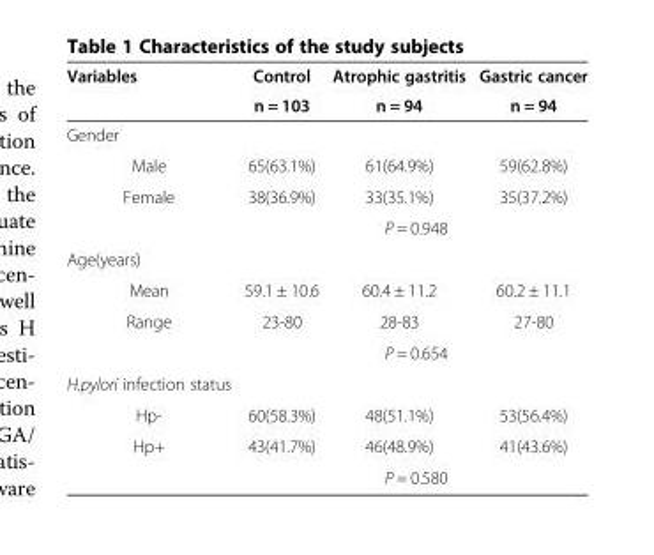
<table><thead><tr><td rowspan="2">Variables</td><td rowspan="2">Control n = 103</td><td rowspan="2">Atrophic gastritis n = 94</td><td rowspan="2">Gastric cancer n = 94</td></tr><tr></tr></thead><tbody><tr><td colspan="4">Gender</td></tr><tr><td>Male</td><td>65(63.1%)</td><td>61(64.9%)</td><td>59(62.8%)</td></tr><tr><td rowspan="2">Female</td><td>38(36.9%)</td><td>33(35.1%)</td><td>35(37.2%)</td></tr><tr><td colspan="3">P = 0.948</td></tr><tr><td colspan="4">Age(years)</td></tr><tr><td>Mean</td><td>59.1 ± 10.6</td><td>60.4 ± 11.2</td><td>60.2 ± 11.1</td></tr><tr><td rowspan="2">Range</td><td>23-80</td><td>28-83</td><td>27-80</td></tr><tr><td colspan="3">P = 0.654</td></tr><tr><td colspan="4">H.pylori infection status</td></tr><tr><td>Hp-</td><td>60(58.3%)</td><td>48(51.1%)</td><td>53(56.4%)</td></tr><tr><td rowspan="2">Hp+</td><td>43(41.7%)</td><td>46(48.9%)</td><td>41(43.6%)</td></tr><tr><td colspan="3">P = 0.580</td></tr></tbody></table>